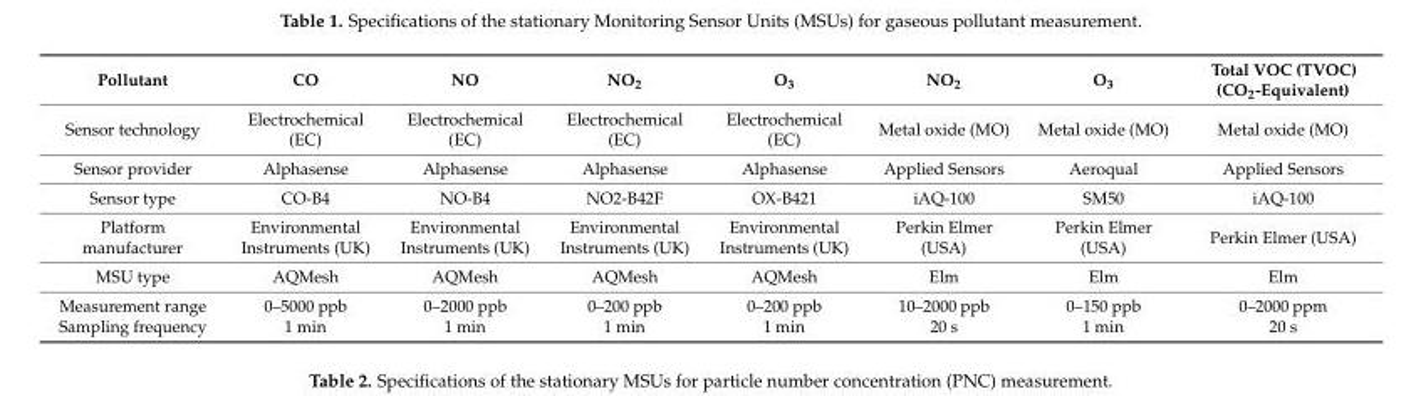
<table><thead><tr><td>Pollutant</td><td>CO</td><td>NO</td><td>NO<sub>2</sub></td><td>O<sub>3</sub></td><td>NO<sub>2</sub></td><td>O<sub>3</sub></td><td>Total VOC (TVOC) (CO<sub>2</sub>-Equivalent)</td></tr></thead><tbody><tr><td>Sensor technology</td><td>Electrochemical (EC)</td><td>Electrochemical (EC)</td><td>Electrochemical (EC)</td><td>Electrochemical (EC)</td><td>Metal oxide (MO)</td><td>Metal oxide (MO)</td><td>Metal oxide (MO)</td></tr><tr><td>Sensor provider</td><td>Alphasense</td><td>Alphasense</td><td>Alphasense</td><td>Alphasense</td><td>Applied Sensors</td><td>Aeroqual</td><td>Applied Sensors</td></tr><tr><td>Sensor type</td><td>CO-B4</td><td>NO-B4</td><td>NO2-B42F</td><td>OX-B421</td><td>iAQ-100</td><td>SM50</td><td>iAQ-100</td></tr><tr><td>Platform manufacturer</td><td>Environmental Instruments (UK)</td><td>Environmental Instruments (UK)</td><td>Environmental Instruments (UK)</td><td>Environmental Instruments (UK)</td><td>Perkin Elmer (USA)</td><td>Perkin Elmer (USA)</td><td>Perkin Elmer (USA)</td></tr><tr><td>MSU type</td><td>AQMesh</td><td>AQMesh</td><td>AQMesh</td><td>AQMesh</td><td>Elm</td><td>Elm</td><td>Elm</td></tr><tr><td>Measurement range Sampling frequency</td><td>0–5000 ppb 1 min</td><td>0–2000 ppb 1 min</td><td>0–200 ppb 1 min</td><td>0–200 ppb 1 min</td><td>10–2000 ppb 20 s</td><td>0–150 ppb 1 min</td><td>0–2000 ppm 20 s</td></tr></tbody></table>